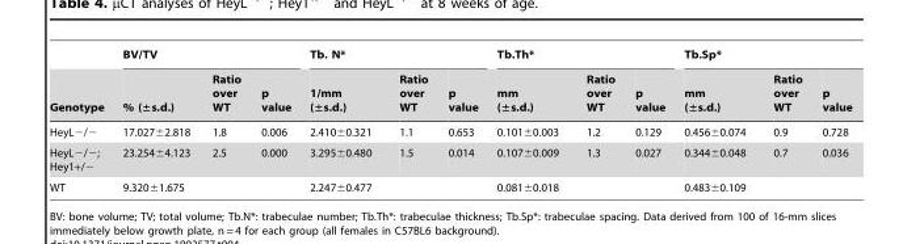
<table><thead><tr><td rowspan="2">Genotype</td><td colspan="3">BV/TV</td><td colspan="3">Tb. N*</td><td colspan="3">Tb.Th*</td><td colspan="3">Tb.Sp*</td></tr><tr><td>% (±s.d.)</td><td>Ratio over WT</td><td>p value</td><td>1/mm (±s.d.)</td><td>Ratio over WT</td><td>p value</td><td>mm (±s.d.)</td><td>Ratio over WT</td><td>p value</td><td>mm (±s.d.)</td><td>Ratio over WT</td><td>p value</td></tr></thead><tbody><tr><td>HeyL−/−</td><td>17.027±2.818</td><td>1.8</td><td>0.006</td><td>2.410±0.321</td><td>1.1</td><td>0.653</td><td>0.101±0.003</td><td>1.2</td><td>0.129</td><td>0.456±0.074</td><td>0.9</td><td>0.728</td></tr><tr><td>HeyL−/−; Hey1+/−</td><td>23.254±4.123</td><td>2.5</td><td>0.000</td><td>3.295±0.480</td><td>1.5</td><td>0.014</td><td>0.107±0.009</td><td>1.3</td><td>0.027</td><td>0.344±0.048</td><td>0.7</td><td>0.036</td></tr><tr><td>WT</td><td>9.320±1.675</td><td></td><td></td><td>2.247±0.477</td><td></td><td></td><td>0.081±0.018</td><td></td><td></td><td>0.483±0.109</td><td></td><td></td></tr></tbody></table>